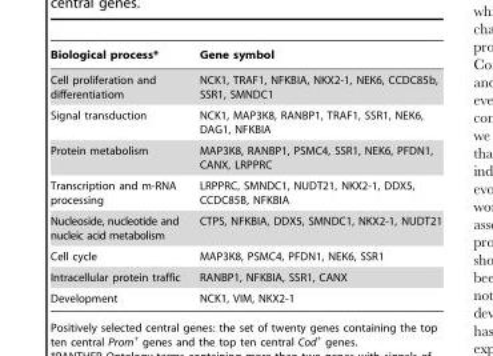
<table><thead><tr><td>Biological process*</td><td>Gene symbol</td></tr></thead><tbody><tr><td>Cell proliferation and differentiatiom</td><td>NCK1, TRAF1, NFKBIA, NKX2-1, NEK6, CCDC85b, SSR1, SMNDC1</td></tr><tr><td>Signal transduction</td><td>NCK1, MAP3K8, RANBP1, TRAF1, SSR1, NEK6, DAG1, NFKBIA</td></tr><tr><td>Protein metabolism</td><td>MAP3K8, RANBP1, PSMC4, SSR1, NEK6, PFDN1, CANX, LRPPRC</td></tr><tr><td>Transcription and m-RNA processing</td><td>LRPPRC, SMNDC1, NUDT21, NKX2-1, DDX5, CCDC85B, NFKBIA</td></tr><tr><td>Nucleoside, nucleotide and nucleic acid metabolism</td><td>CTPS, NFKBIA, DDX5, SMNDC1, NKX2-1, NUDT21</td></tr><tr><td>Cell cycle</td><td>MAP3K8, PSMC4, PFDN1, NEK6, SSR1</td></tr><tr><td>Intracellular protein traffic</td><td>RANBP1, NFKBIA, SSR1, CANX</td></tr><tr><td>Development</td><td>NCK1, VIM, NKX2-1</td></tr></tbody></table>